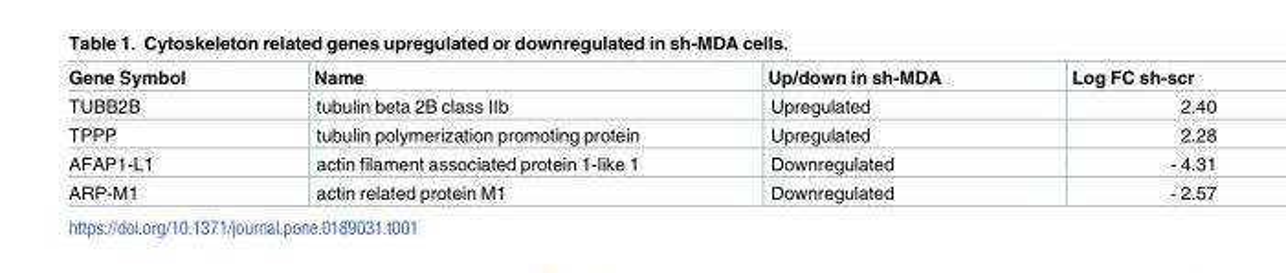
<table><thead><tr><td>Gene Symbol</td><td>Name</td><td>Up/down in sh-MDA</td><td>Log FC sh-scr</td></tr></thead><tbody><tr><td>TUBB2B</td><td>tubulin beta 2B class IIb</td><td>Upregulated</td><td>2.40</td></tr><tr><td>TPPP</td><td>tubulin polymerization promoting protein</td><td>Upregulated</td><td>2.28</td></tr><tr><td>AFAP1-L1</td><td>actin filament associated protein 1-like 1</td><td>Downregulated</td><td>- 4.31</td></tr><tr><td>ARP-M1</td><td>actin related protein M1</td><td>Downregulated</td><td>- 2.57</td></tr></tbody></table>